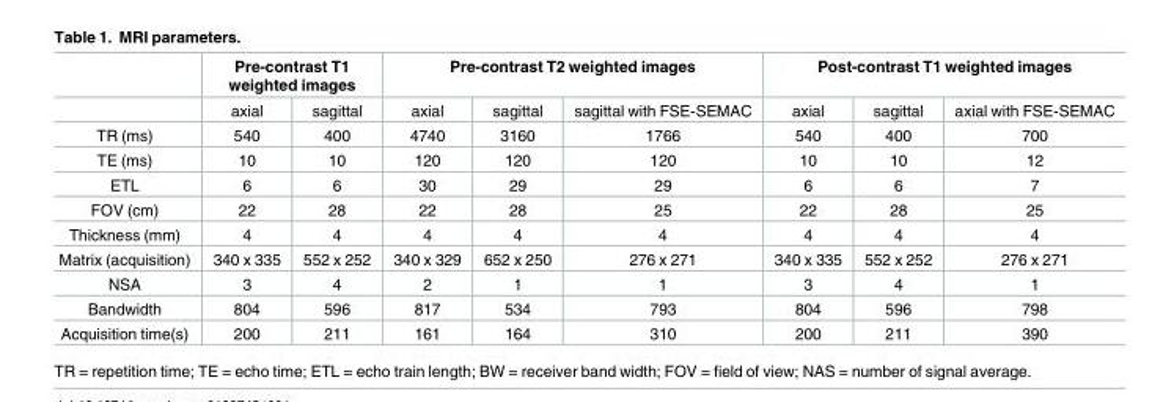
<table><thead><tr><td rowspan="2"></td><td colspan="2">Pre-contrast T1 weighted images</td><td colspan="3">Pre-contrast T2 weighted images</td><td colspan="3">Post-contrast T1 weighted images</td></tr><tr><td>axial</td><td>sagittal</td><td>axial</td><td>sagittal</td><td>sagittal with FSE-SEMAC</td><td>axial</td><td>sagittal</td><td>axial with FSE-SEMAC</td></tr></thead><tbody><tr><td>TR (ms)</td><td>540</td><td>400</td><td>4740</td><td>3160</td><td>1766</td><td>540</td><td>400</td><td>700</td></tr><tr><td>TE (ms)</td><td>10</td><td>10</td><td>120</td><td>120</td><td>120</td><td>10</td><td>10</td><td>12</td></tr><tr><td>ETL</td><td>6</td><td>6</td><td>30</td><td>29</td><td>29</td><td>6</td><td>6</td><td>7</td></tr><tr><td>FOV (cm)</td><td>22</td><td>28</td><td>22</td><td>28</td><td>25</td><td>22</td><td>28</td><td>25</td></tr><tr><td>Thickness (mm)</td><td>4</td><td>4</td><td>4</td><td>4</td><td>4</td><td>4</td><td>4</td><td>4</td></tr><tr><td>Matrix (acquisition)</td><td>340 x 335</td><td>552 x 252</td><td>340 x 329</td><td>652 x 250</td><td>276 x 271</td><td>340 x 335</td><td>552 x 252</td><td>276 x 271</td></tr><tr><td>NSA</td><td>3</td><td>4</td><td>2</td><td>1</td><td>1</td><td>3</td><td>4</td><td>1</td></tr><tr><td>Bandwidth</td><td>804</td><td>596</td><td>817</td><td>534</td><td>793</td><td>804</td><td>596</td><td>798</td></tr><tr><td>Acquisition time(s)</td><td>200</td><td>211</td><td>161</td><td>164</td><td>310</td><td>200</td><td>211</td><td>390</td></tr></tbody></table>